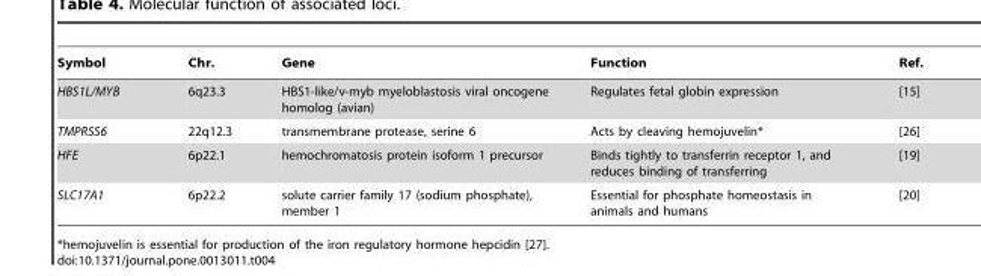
<table><thead><tr><td>Symbol</td><td>Chr.</td><td>Gene</td><td>Function</td><td>Ref.</td></tr></thead><tbody><tr><td>HBS1L/MYB</td><td>6q23.3</td><td>HBS1-like/v-myb myeloblastosis viral oncogene homolog (avian)</td><td>Regulates fetal globin expression</td><td>[15]</td></tr><tr><td>TMPRSS6</td><td>22q12.3</td><td>transmembrane protease, serine 6</td><td>Acts by cleaving hemojuvelin*</td><td>[26]</td></tr><tr><td>HFE</td><td>6p22.1</td><td>hemochromatosis protein isoform 1 precursor</td><td>Binds tightly to transferrin receptor 1, and reduces binding of transferring</td><td>[19]</td></tr><tr><td>SLC17A1</td><td>6p22.2</td><td>solute carrier family 17 (sodium phosphate), member 1</td><td>Essential for phosphate homeostasis in animals and humans</td><td>[20]</td></tr></tbody></table>